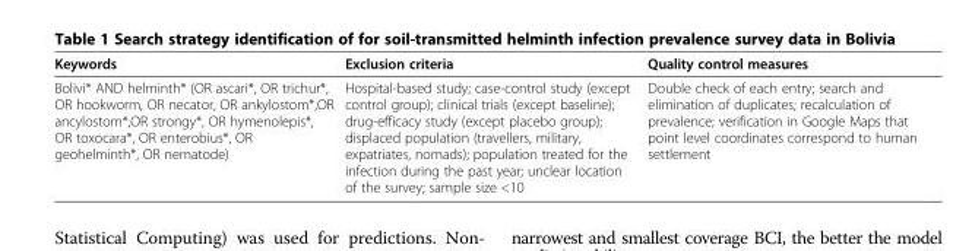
<table><thead><tr><td>Keywords</td><td>Exclusion criteria</td><td>Quality control measures</td></tr></thead><tbody><tr><td>Bolivi* AND helminth* (OR ascari*, OR trichur*, OR hookworm, OR necator, OR ankylostom*,OR ancylostom*,OR strongy*, OR hymenolepis*, OR toxocara*, OR enterobius*, OR geohelminth*, OR nematode)</td><td>Hospital-based study; case-control study (except control group); clinical trials (except baseline); drug-efficacy study (except placebo group); displaced population (travellers, military, expatriates, nomads); population treated for the infection during the past year; unclear location of the survey; sample size &lt;10</td><td>Double check of each entry; search and elimination of duplicates; recalculation of prevalence; verification in Google Maps that point level coordinates correspond to human settlement</td></tr></tbody></table>